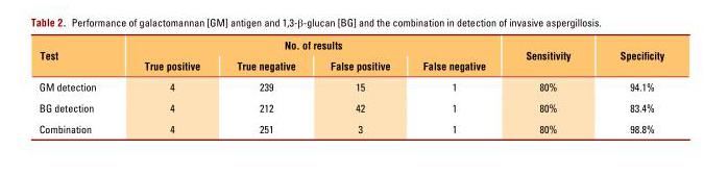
<table><thead><tr><td rowspan="2">Test</td><td colspan="4">No. of results</td><td rowspan="2">Sensitivity</td><td rowspan="2">Specificity</td></tr><tr><td>True positive</td><td>True negative</td><td>False positive</td><td>False negative</td></tr></thead><tbody><tr><td>GM detection</td><td>4</td><td>239</td><td>15</td><td>1</td><td>80%</td><td>94.1%</td></tr><tr><td>BG detection</td><td>4</td><td>212</td><td>42</td><td>1</td><td>80%</td><td>83.4%</td></tr><tr><td>Combination</td><td>4</td><td>251</td><td>3</td><td>1</td><td>80%</td><td>98.8%</td></tr></tbody></table>